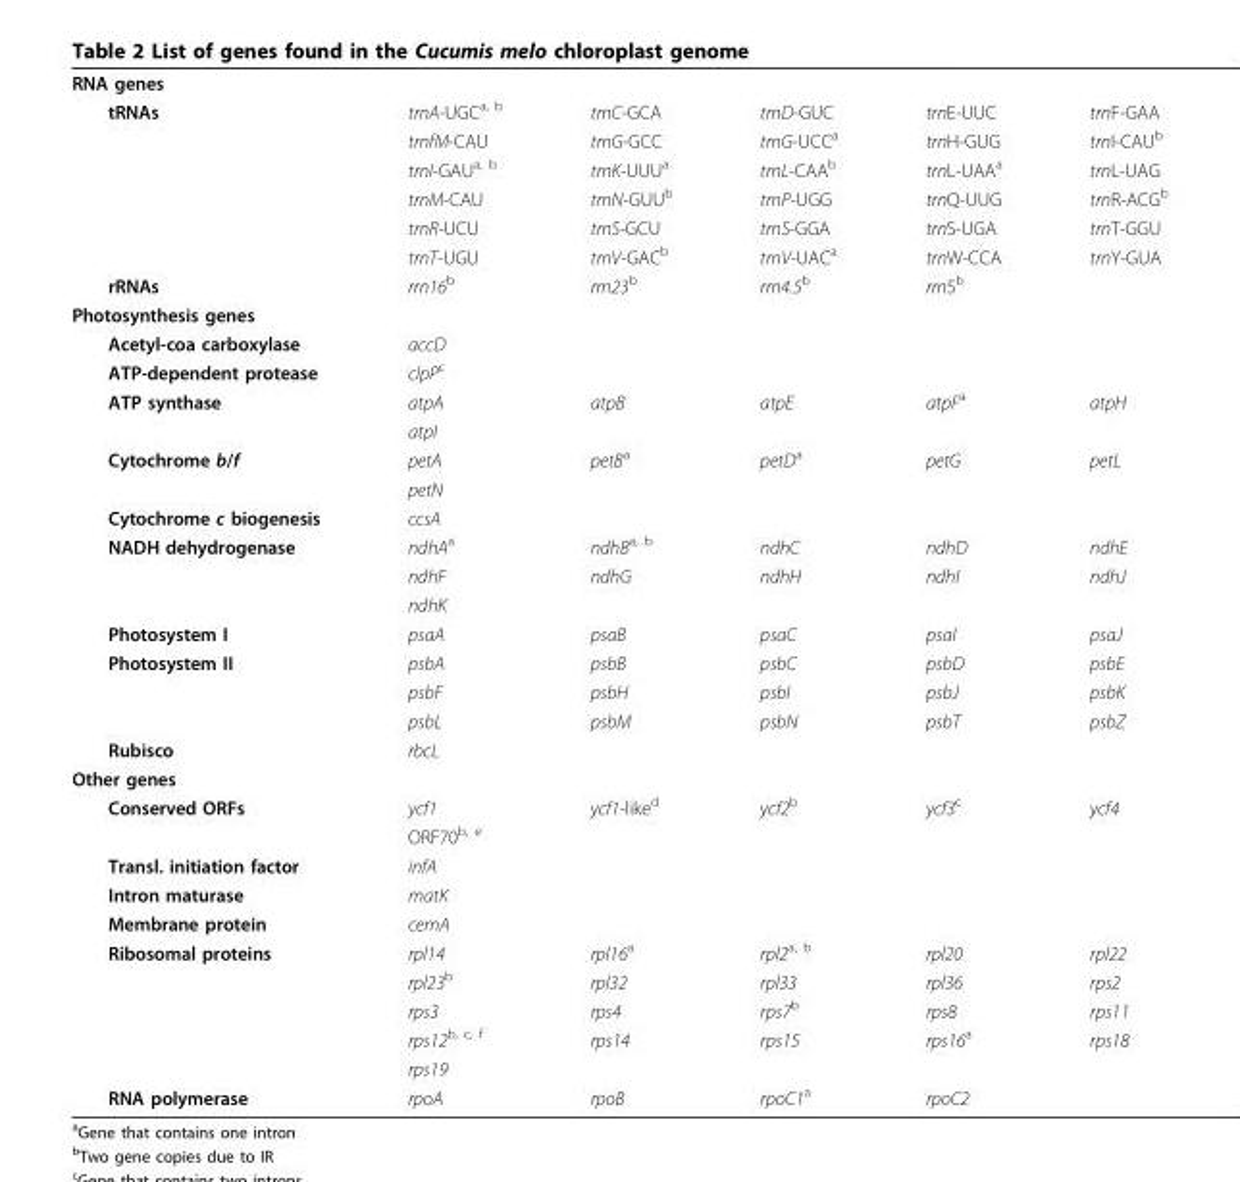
<table><tbody><tr><td colspan="6">RNA genes</td></tr><tr><td rowspan="6">tRNAs</td><td>trnA-UGC<sup>a, b</sup></td><td>trnC-GCA</td><td>trnD-GUC</td><td>trnE-UUC</td><td>trnF-GAA</td></tr><tr><td>trnfM-CAU</td><td>trnG-GCC</td><td>trnG-UCC<sup>a</sup></td><td>trnH-GUG</td><td>trnI-CAU<sup>b</sup></td></tr><tr><td>trnI-GAU<sup>a, b</sup></td><td>trnK-UUU<sup>a</sup></td><td>trnL-CAA<sup>b</sup></td><td>trnL-UAA<sup>a</sup></td><td>trnL-UAG</td></tr><tr><td>trnM-CAU</td><td>trnN-GUU<sup>b</sup></td><td>trnP-UGG</td><td>trnQ-UUG</td><td>trnR-ACG<sup>b</sup></td></tr><tr><td>trnR-UCU</td><td>trnS-GCU</td><td>trnS-GGA</td><td>trnS-UGA</td><td>trnT-GGU</td></tr><tr><td>trnT-UGU</td><td>trnV-GAC<sup>b</sup></td><td>trnV-UAC<sup>a</sup></td><td>trnW-CCA</td><td>trnY-GUA</td></tr><tr><td>rRNAs</td><td>rrn16<sup>b</sup></td><td>rrn23<sup>b</sup></td><td>rrn4.5<sup>b</sup></td><td>rrn5<sup>b</sup></td><td></td></tr><tr><td colspan="6">Photosynthesis genes</td></tr><tr><td>Acetyl-coa carboxylase</td><td>accD</td><td></td><td></td><td></td><td></td></tr><tr><td>ATP-dependent protease</td><td>clpP<sup>c</sup></td><td></td><td></td><td></td><td></td></tr><tr><td rowspan="2">ATP synthase</td><td>atpA</td><td>atpB</td><td>atpE</td><td>atpF<sup>a</sup></td><td>atpH</td></tr><tr><td>atpI</td><td></td><td></td><td></td><td></td></tr><tr><td rowspan="2">Cytochrome b/f</td><td>petA</td><td>petB<sup>a</sup></td><td>petD<sup>a</sup></td><td>petG</td><td>petL</td></tr><tr><td>petN</td><td></td><td></td><td></td><td></td></tr><tr><td>Cytochrome c biogenesis</td><td>ccsA</td><td></td><td></td><td></td><td></td></tr><tr><td rowspan="3">NADH dehydrogenase</td><td>ndhA<sup>a</sup></td><td>ndhB<sup>a, b</sup></td><td>ndhC</td><td>ndhD</td><td>ndhE</td></tr><tr><td>ndhF</td><td>ndhG</td><td>ndhH</td><td>ndhI</td><td>ndhJ</td></tr><tr><td>ndhK</td><td></td><td></td><td></td><td></td></tr><tr><td>Photosystem I</td><td>psaA</td><td>psaB</td><td>psaC</td><td>psaI</td><td>psaJ</td></tr><tr><td rowspan="3">Photosystem II</td><td>psbA</td><td>psbB</td><td>psbC</td><td>psbD</td><td>psbE</td></tr><tr><td>psbF</td><td>psbH</td><td>psbI</td><td>psbJ</td><td>psbK</td></tr><tr><td>psbL</td><td>psbM</td><td>psbN</td><td>psbT</td><td>psbZ</td></tr><tr><td>Rubisco</td><td>rbcL</td><td></td><td></td><td></td><td></td></tr><tr><td colspan="6">Other genes</td></tr><tr><td rowspan="2">Conserved ORFs</td><td>ycf1</td><td>ycf1-like<sup>d</sup></td><td>ycf2<sup>b</sup></td><td>ycf3<sup>c</sup></td><td>ycf4</td></tr><tr><td>ORF70<sup>b, e</sup></td><td></td><td></td><td></td><td></td></tr><tr><td>Transl. initiation factor</td><td>infA</td><td></td><td></td><td></td><td></td></tr><tr><td>Intron maturase</td><td>matK</td><td></td><td></td><td></td><td></td></tr><tr><td>Membrane protein</td><td>cemA</td><td></td><td></td><td></td><td></td></tr><tr><td rowspan="5">Ribosomal proteins</td><td>rpl14</td><td>rpl16<sup>a</sup></td><td>rpl2<sup>a, b</sup></td><td>rpl20</td><td>rpl22</td></tr><tr><td>rpl23<sup>b</sup></td><td>rpl32</td><td>rpl33</td><td>rpl36</td><td>rps2</td></tr><tr><td>rps3</td><td>rps4</td><td>rps7<sup>b</sup></td><td>rps8</td><td>rps11</td></tr><tr><td>rps12<sup>b, c, f</sup></td><td>rps14</td><td>rps15</td><td>rps16<sup>a</sup></td><td>rps18</td></tr><tr><td>rps19</td><td></td><td></td><td></td><td></td></tr><tr><td>RNA polymerase</td><td>rpoA</td><td>rpoB</td><td>rpoC1<sup>a</sup></td><td>rpoC2</td><td></td></tr></tbody></table>